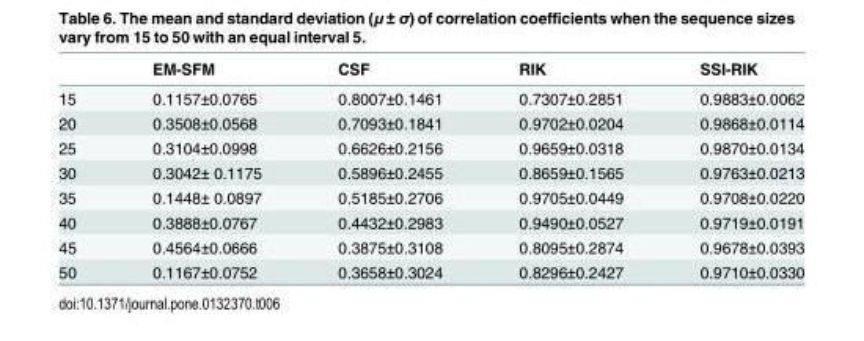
<table><thead><tr><td></td><td>EM-SFM</td><td>CSF</td><td>RIK</td><td>SSI-RIK</td></tr></thead><tbody><tr><td>15</td><td>0.1157±0.0765</td><td>0.8007±0.1461</td><td>0.7307±0.2851</td><td>0.9883±0.0062</td></tr><tr><td>20</td><td>0.3508±0.0568</td><td>0.7093±0.1841</td><td>0.9702±0.0204</td><td>0.9868±0.0114</td></tr><tr><td>25</td><td>0.3104±0.0998</td><td>0.6626±0.2156</td><td>0.9659±0.0318</td><td>0.9870±0.0134</td></tr><tr><td>30</td><td>0.3042± 0.1175</td><td>0.5896±0.2455</td><td>0.8659±0.1565</td><td>0.9763±0.0213</td></tr><tr><td>35</td><td>0.1448± 0.0897</td><td>0.5185±0.2706</td><td>0.9705±0.0449</td><td>0.9708±0.0220</td></tr><tr><td>40</td><td>0.3888±0.0767</td><td>0.4432±0.2983</td><td>0.9490±0.0527</td><td>0.9719±0.0191</td></tr><tr><td>45</td><td>0.4564±0.0666</td><td>0.3875±0.3108</td><td>0.8095±0.2874</td><td>0.9678±0.0393</td></tr><tr><td>50</td><td>0.1167±0.0752</td><td>0.3658±0.3024</td><td>0.8296±0.2427</td><td>0.9710±0.0330</td></tr></tbody></table>